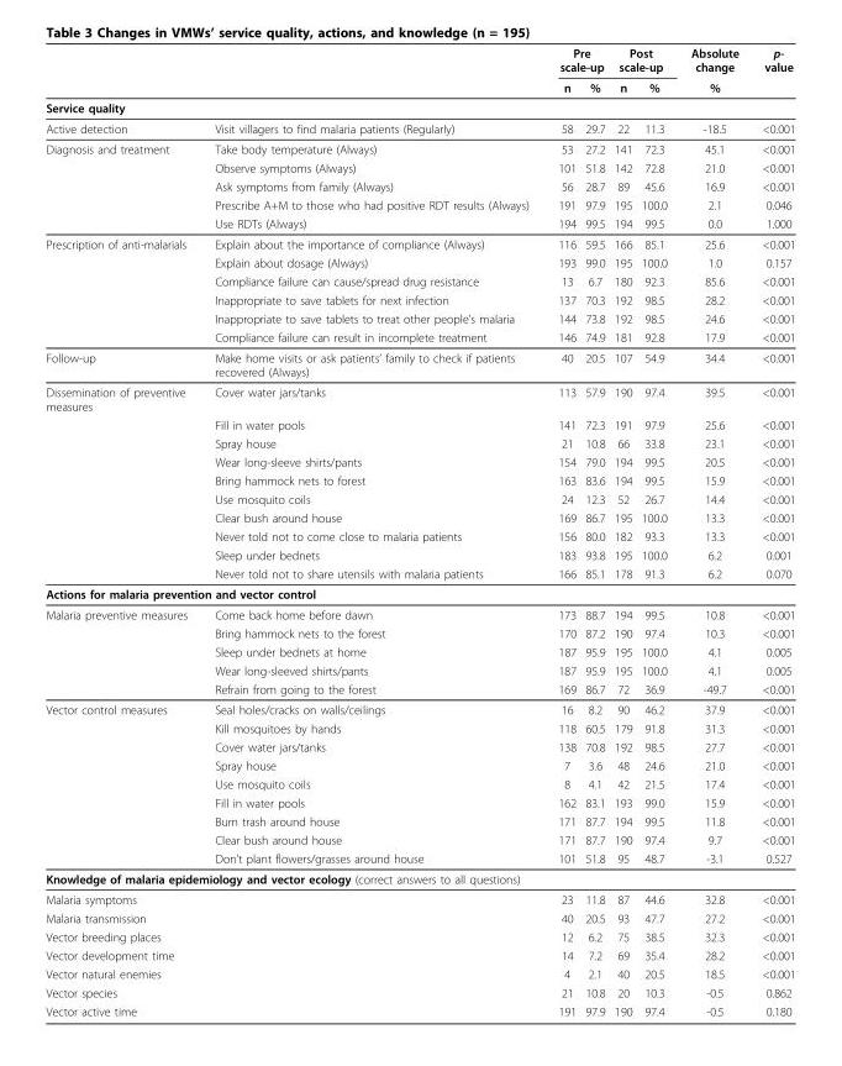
<table><thead><tr><td rowspan="2"></td><td rowspan="2"></td><td colspan="2">Pre scale-up</td><td colspan="2">Post scale-up</td><td rowspan="2">Absolute change %</td><td rowspan="2">p- value</td></tr><tr><td>n</td><td>%</td><td>n</td><td>%</td></tr></thead><tbody><tr><td colspan="8">Service quality</td></tr><tr><td>Active detection</td><td>Visit villagers to find malaria patients (Regularly)</td><td>58</td><td>29.7</td><td>22</td><td>11.3</td><td>-18.5</td><td>&lt;0.001</td></tr><tr><td rowspan="5">Diagnosis and treatment</td><td>Take body temperature (Always)</td><td>53</td><td>27.2</td><td>141</td><td>72.3</td><td>45.1</td><td>&lt;0.001</td></tr><tr><td>Observe symptoms (Always)</td><td>101</td><td>51.8</td><td>142</td><td>72.8</td><td>21.0</td><td>&lt;0.001</td></tr><tr><td>Ask symptoms from family (Always)</td><td>56</td><td>28.7</td><td>89</td><td>45.6</td><td>16.9</td><td>&lt;0.001</td></tr><tr><td>Prescribe A+M to those who had positive RDT results (Always)</td><td>191</td><td>97.9</td><td>195</td><td>100.0</td><td>2.1</td><td>0.046</td></tr><tr><td>Use RDTs (Always)</td><td>194</td><td>99.5</td><td>194</td><td>99.5</td><td>0.0</td><td>1.000</td></tr><tr><td rowspan="6">Prescription of anti-malarials</td><td>Explain about the importance of compliance (Always)</td><td>116</td><td>59.5</td><td>166</td><td>85.1</td><td>25.6</td><td>&lt;0.001</td></tr><tr><td>Explain about dosage (Always)</td><td>193</td><td>99.0</td><td>195</td><td>100.0</td><td>1.0</td><td>0.157</td></tr><tr><td>Compliance failure can cause/spread drug resistance</td><td>13</td><td>6.7</td><td>180</td><td>92.3</td><td>85.6</td><td>&lt;0.001</td></tr><tr><td>Inappropriate to save tablets for next infection</td><td>137</td><td>70.3</td><td>192</td><td>98.5</td><td>28.2</td><td>&lt;0.001</td></tr><tr><td>Inappropriate to save tablets to treat other people’s malaria</td><td>144</td><td>73.8</td><td>192</td><td>98.5</td><td>24.6</td><td>&lt;0.001</td></tr><tr><td>Compliance failure can result in incomplete treatment</td><td>146</td><td>74.9</td><td>181</td><td>92.8</td><td>17.9</td><td>&lt;0.001</td></tr><tr><td>Follow-up</td><td>Make home visits or ask patients’ family to check if patients recovered (Always)</td><td>40</td><td>20.5</td><td>107</td><td>54.9</td><td>34.4</td><td>&lt;0.001</td></tr><tr><td rowspan="10">Dissemination of preventive measures</td><td>Cover water jars/tanks</td><td>113</td><td>57.9</td><td>190</td><td>97.4</td><td>39.5</td><td>&lt;0.001</td></tr><tr><td>Fill in water pools</td><td>141</td><td>72.3</td><td>191</td><td>97.9</td><td>25.6</td><td>&lt;0.001</td></tr><tr><td>Spray house</td><td>21</td><td>10.8</td><td>66</td><td>33.8</td><td>23.1</td><td>&lt;0.001</td></tr><tr><td>Wear long-sleeve shirts/pants</td><td>154</td><td>79.0</td><td>194</td><td>99.5</td><td>20.5</td><td>&lt;0.001</td></tr><tr><td>Bring hammock nets to forest</td><td>163</td><td>83.6</td><td>194</td><td>99.5</td><td>15.9</td><td>&lt;0.001</td></tr><tr><td>Use mosquito coils</td><td>24</td><td>12.3</td><td>52</td><td>26.7</td><td>14.4</td><td>&lt;0.001</td></tr><tr><td>Clear bush around house</td><td>169</td><td>86.7</td><td>195</td><td>100.0</td><td>13.3</td><td>&lt;0.001</td></tr><tr><td>Never told not to come close to malaria patients</td><td>156</td><td>80.0</td><td>182</td><td>93.3</td><td>13.3</td><td>&lt;0.001</td></tr><tr><td>Sleep under bednets</td><td>183</td><td>93.8</td><td>195</td><td>100.0</td><td>6.2</td><td>0.001</td></tr><tr><td>Never told not to share utensils with malaria patients</td><td>166</td><td>85.1</td><td>178</td><td>91.3</td><td>6.2</td><td>0.070</td></tr><tr><td colspan="8">Actions for malaria prevention and vector control</td></tr><tr><td rowspan="5">Malaria preventive measures</td><td>Come back home before dawn</td><td>173</td><td>88.7</td><td>194</td><td>99.5</td><td>10.8</td><td>&lt;0.001</td></tr><tr><td>Bring hammock nets to the forest</td><td>170</td><td>87.2</td><td>190</td><td>97.4</td><td>10.3</td><td>&lt;0.001</td></tr><tr><td>Sleep under bednets at home</td><td>187</td><td>95.9</td><td>195</td><td>100.0</td><td>4.1</td><td>0.005</td></tr><tr><td>Wear long-sleeved shirts/pants</td><td>187</td><td>95.9</td><td>195</td><td>100.0</td><td>4.1</td><td>0.005</td></tr><tr><td>Refrain from going to the forest</td><td>169</td><td>86.7</td><td>72</td><td>36.9</td><td>-49.7</td><td>&lt;0.001</td></tr><tr><td rowspan="9">Vector control measures</td><td>Seal holes/cracks on walls/ceilings</td><td>16</td><td>8.2</td><td>90</td><td>46.2</td><td>37.9</td><td>&lt;0.001</td></tr><tr><td>Kill mosquitoes by hands</td><td>118</td><td>60.5</td><td>179</td><td>91.8</td><td>31.3</td><td>&lt;0.001</td></tr><tr><td>Cover water jars/tanks</td><td>138</td><td>70.8</td><td>192</td><td>98.5</td><td>27.7</td><td>&lt;0.001</td></tr><tr><td>Spray house</td><td>7</td><td>3.6</td><td>48</td><td>24.6</td><td>21.0</td><td>&lt;0.001</td></tr><tr><td>Use mosquito coils</td><td>8</td><td>4.1</td><td>42</td><td>21.5</td><td>17.4</td><td>&lt;0.001</td></tr><tr><td>Fill in water pools</td><td>162</td><td>83.1</td><td>193</td><td>99.0</td><td>15.9</td><td>&lt;0.001</td></tr><tr><td>Burn trash around house</td><td>171</td><td>87.7</td><td>194</td><td>99.5</td><td>11.8</td><td>&lt;0.001</td></tr><tr><td>Clear bush around house</td><td>171</td><td>87.7</td><td>190</td><td>97.4</td><td>9.7</td><td>&lt;0.001</td></tr><tr><td>Don’t plant flowers/grasses around house</td><td>101</td><td>51.8</td><td>95</td><td>48.7</td><td>-3.1</td><td>0.527</td></tr><tr><td colspan="8">Knowledge of malaria epidemiology and vector ecology (correct answers to all questions)</td></tr><tr><td colspan="2">Malaria symptoms</td><td>23</td><td>11.8</td><td>87</td><td>44.6</td><td>32.8</td><td>&lt;0.001</td></tr><tr><td colspan="2">Malaria transmission</td><td>40</td><td>20.5</td><td>93</td><td>47.7</td><td>27.2</td><td>&lt;0.001</td></tr><tr><td colspan="2">Vector breeding places</td><td>12</td><td>6.2</td><td>75</td><td>38.5</td><td>32.3</td><td>&lt;0.001</td></tr><tr><td colspan="2">Vector development time</td><td>14</td><td>7.2</td><td>69</td><td>35.4</td><td>28.2</td><td>&lt;0.001</td></tr><tr><td colspan="2">Vector natural enemies</td><td>4</td><td>2.1</td><td>40</td><td>20.5</td><td>18.5</td><td>&lt;0.001</td></tr><tr><td colspan="2">Vector species</td><td>21</td><td>10.8</td><td>20</td><td>10.3</td><td>-0.5</td><td>0.862</td></tr><tr><td colspan="2">Vector active time</td><td>191</td><td>97.9</td><td>190</td><td>97.4</td><td>-0.5</td><td>0.180</td></tr></tbody></table>